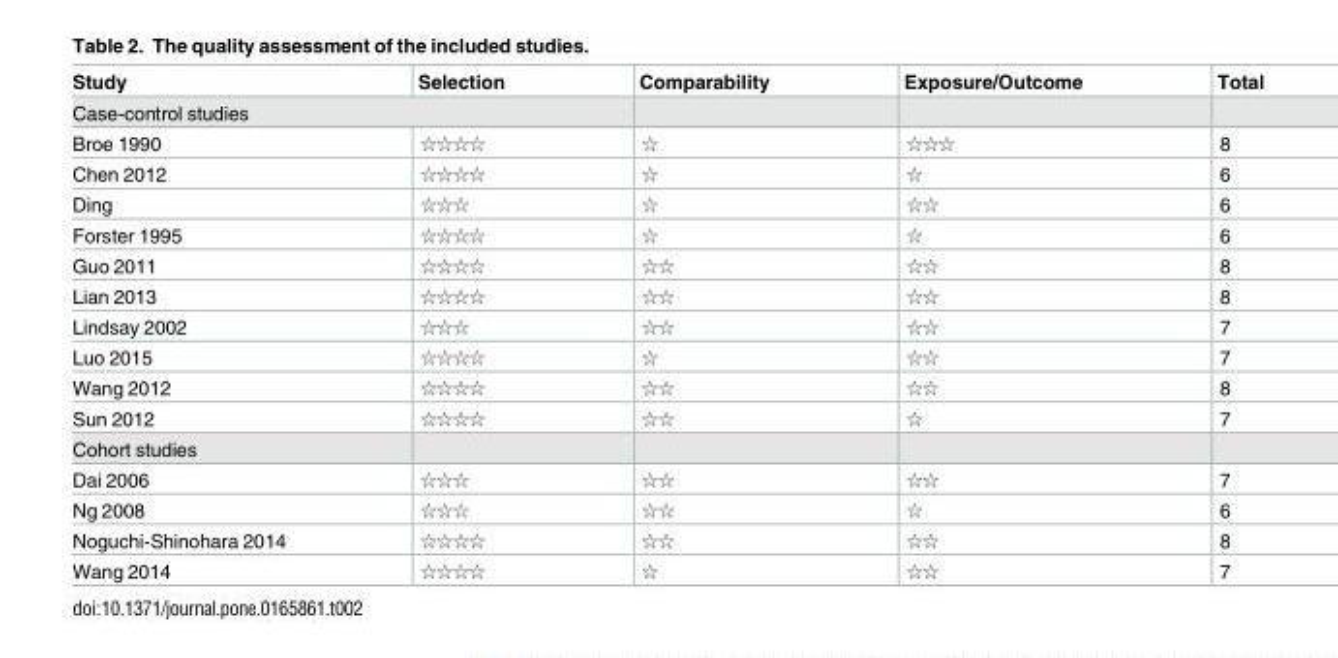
<table><thead><tr><td>Study</td><td>Selection</td><td>Comparability</td><td>Exposure/Outcome</td><td>Total</td></tr></thead><tbody><tr><td colspan="5">Case-control studies</td></tr><tr><td>Broe 1990</td><td>☆☆☆☆</td><td>☆</td><td>☆☆☆</td><td>8</td></tr><tr><td>Chen 2012</td><td>☆☆☆☆</td><td>☆</td><td>☆</td><td>6</td></tr><tr><td>Ding</td><td>☆☆☆</td><td>☆</td><td>☆☆</td><td>6</td></tr><tr><td>Forster 1995</td><td>☆☆☆☆</td><td>☆</td><td>☆</td><td>6</td></tr><tr><td>Guo 2011</td><td>☆☆☆☆</td><td>☆☆</td><td>☆☆</td><td>8</td></tr><tr><td>Lian 2013</td><td>☆☆☆☆</td><td>☆☆</td><td>☆☆</td><td>8</td></tr><tr><td>Lindsay 2002</td><td>☆☆☆</td><td>☆☆</td><td>☆☆</td><td>7</td></tr><tr><td>Luo 2015</td><td>☆☆☆☆</td><td>☆</td><td>☆☆</td><td>7</td></tr><tr><td>Wang 2012</td><td>☆☆☆☆</td><td>☆☆</td><td>☆☆</td><td>8</td></tr><tr><td>Sun 2012</td><td>☆☆☆☆</td><td>☆☆</td><td>☆</td><td>7</td></tr><tr><td colspan="5">Cohort studies</td></tr><tr><td>Dai 2006</td><td>☆☆☆</td><td>☆☆</td><td>☆☆</td><td>7</td></tr><tr><td>Ng 2008</td><td>☆☆☆</td><td>☆☆</td><td>☆</td><td>6</td></tr><tr><td>Noguchi-Shinohara 2014</td><td>☆☆☆☆</td><td>☆☆</td><td>☆☆</td><td>8</td></tr><tr><td>Wang 2014</td><td>☆☆☆☆</td><td>☆</td><td>☆☆</td><td>7</td></tr></tbody></table>